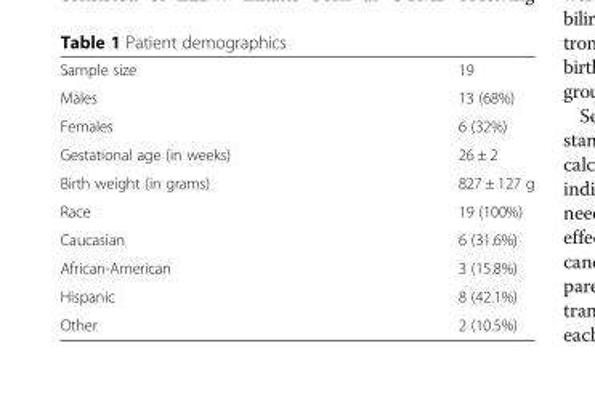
<table><tbody><tr><td>Sample size</td><td>19</td></tr><tr><td>Males</td><td>13 (68%)</td></tr><tr><td>Females</td><td>6 (32%)</td></tr><tr><td>Gestational age (in weeks)</td><td>26 ± 2</td></tr><tr><td>Birth weight (in grams)</td><td>827 ± 127 g</td></tr><tr><td>Race</td><td>19 (100%)</td></tr><tr><td>Caucasian</td><td>6 (31.6%)</td></tr><tr><td>African-American</td><td>3 (15.8%)</td></tr><tr><td>Hispanic</td><td>8 (42.1%)</td></tr><tr><td>Other</td><td>2 (10.5%)</td></tr></tbody></table>